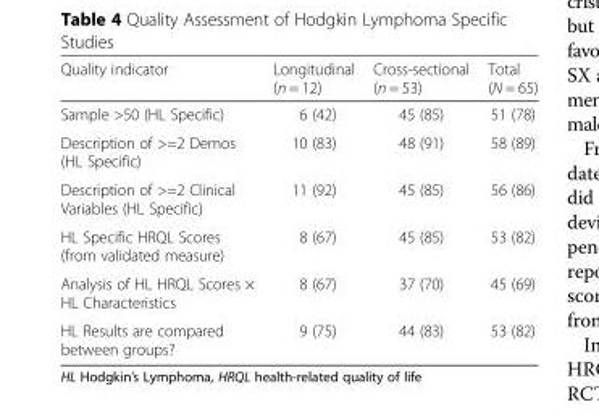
<table><thead><tr><td>Quality indicator</td><td>Longitudinal (n = 12)</td><td>Cross-sectional (n = 53)</td><td>Total (N = 65)</td></tr></thead><tbody><tr><td>Sample &gt;50 (HL Specific)</td><td>6 (42)</td><td>45 (85)</td><td>51 (78)</td></tr><tr><td>Description of &gt;=2 Demos (HL Specific)</td><td>10 (83)</td><td>48 (91)</td><td>58 (89)</td></tr><tr><td>Description of &gt;=2 Clinical Variables (HL Specific)</td><td>11 (92)</td><td>45 (85)</td><td>56 (86)</td></tr><tr><td>HL Specific HRQL Scores (from validated measure)</td><td>8 (67)</td><td>45 (85)</td><td>53 (82)</td></tr><tr><td>Analysis of HL HRQL Scores × HL Characteristics</td><td>8 (67)</td><td>37 (70)</td><td>45 (69)</td></tr><tr><td>HL Results are compared between groups?</td><td>9 (75)</td><td>44 (83)</td><td>53 (82)</td></tr></tbody></table>